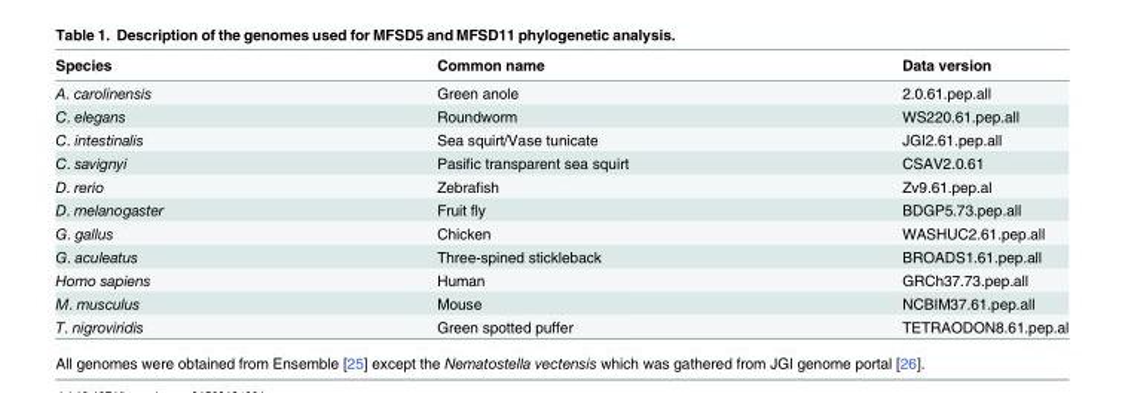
<table><thead><tr><td>Species</td><td>Common name</td><td>Data version</td></tr></thead><tbody><tr><td>A. carolinensis</td><td>Green anole</td><td>2.0.61.pep.all</td></tr><tr><td>C. elegans</td><td>Roundworm</td><td>WS220.61.pep.all</td></tr><tr><td>C. intestinalis</td><td>Sea squirt/Vase tunicate</td><td>JGI2.61.pep.all</td></tr><tr><td>C. savignyi</td><td>Pasific transparent sea squirt</td><td>CSAV2.0.61</td></tr><tr><td>D. rerio</td><td>Zebrafish</td><td>Zv9.61.pep.al</td></tr><tr><td>D. melanogaster</td><td>Fruit fly</td><td>BDGP5.73.pep.all</td></tr><tr><td>G. gallus</td><td>Chicken</td><td>WASHUC2.61.pep.all</td></tr><tr><td>G. aculeatus</td><td>Three-spined stickleback</td><td>BROADS1.61.pep.all</td></tr><tr><td>Homo sapiens</td><td>Human</td><td>GRCh37.73.pep.all</td></tr><tr><td>M. musculus</td><td>Mouse</td><td>NCBIM37.61.pep.all</td></tr><tr><td>T. nigroviridis</td><td>Green spotted puffer</td><td>TETRAODON8.61.pep.al</td></tr></tbody></table>